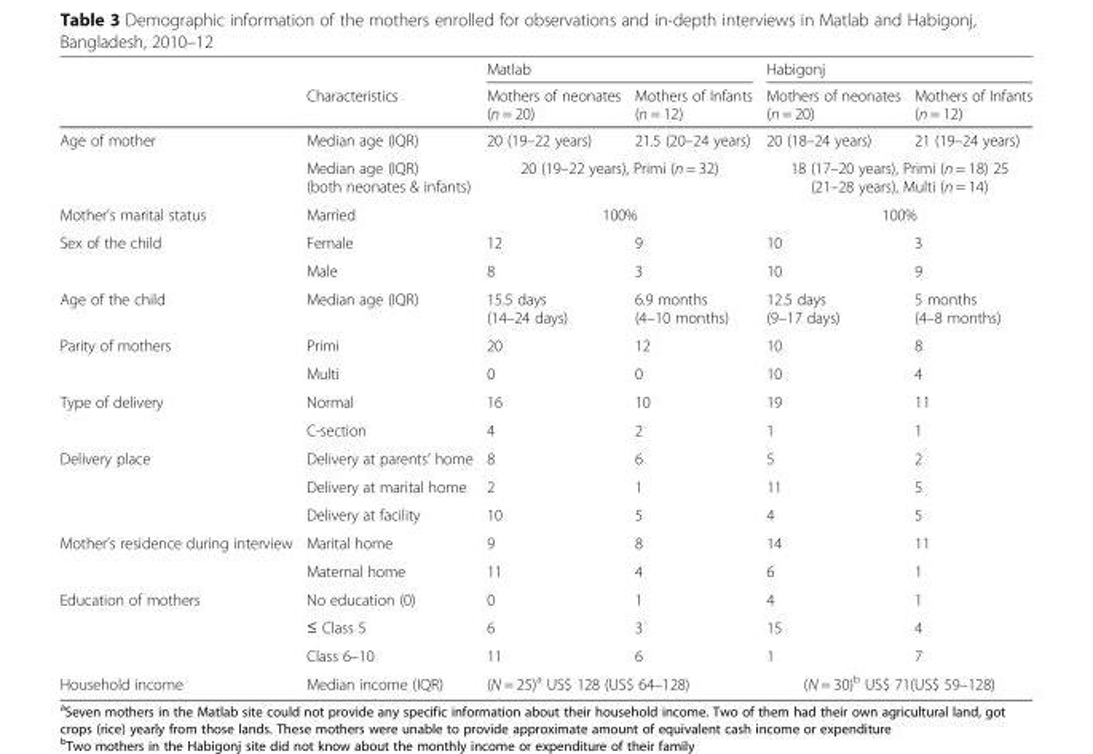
<table><thead><tr><td rowspan="2"></td><td rowspan="2">Characteristics</td><td colspan="2">Matlab</td><td colspan="2">Habigonj</td></tr><tr><td>Mothers of neonates (n = 20)</td><td>Mothers of Infants (n = 12)</td><td>Mothers of neonates (n = 20)</td><td>Mothers of Infants (n = 12)</td></tr></thead><tbody><tr><td rowspan="2">Age of mother</td><td>Median age (IQR)</td><td>20 (19–22 years)</td><td>21.5 (20–24 years)</td><td>20 (18–24 years)</td><td>21 (19–24 years)</td></tr><tr><td>Median age (IQR) (both neonates &amp; infants)</td><td colspan="2">20 (19–22 years), Primi (n = 32)</td><td colspan="2">18 (17–20 years), Primi (n = 18) 25 (21–28 years), Multi (n = 14)</td></tr><tr><td>Mother’s marital status</td><td>Married</td><td colspan="2">100%</td><td colspan="2">100%</td></tr><tr><td rowspan="2">Sex of the child</td><td>Female</td><td>12</td><td>9</td><td>10</td><td>3</td></tr><tr><td>Male</td><td>8</td><td>3</td><td>10</td><td>9</td></tr><tr><td>Age of the child</td><td>Median age (IQR)</td><td>15.5 days (14–24 days)</td><td>6.9 months (4–10 months)</td><td>12.5 days (9–17 days)</td><td>5 months (4–8 months)</td></tr><tr><td rowspan="2">Parity of mothers</td><td>Primi</td><td>20</td><td>12</td><td>10</td><td>8</td></tr><tr><td>Multi</td><td>0</td><td>0</td><td>10</td><td>4</td></tr><tr><td rowspan="2">Type of delivery</td><td>Normal</td><td>16</td><td>10</td><td>19</td><td>11</td></tr><tr><td>C-section</td><td>4</td><td>2</td><td>1</td><td>1</td></tr><tr><td rowspan="3">Delivery place</td><td>Delivery at parents’ home</td><td>8</td><td>6</td><td>5</td><td>2</td></tr><tr><td>Delivery at marital home</td><td>2</td><td>1</td><td>11</td><td>5</td></tr><tr><td>Delivery at facility</td><td>10</td><td>5</td><td>4</td><td>5</td></tr><tr><td rowspan="2">Mother’s residence during interview</td><td>Marital home</td><td>9</td><td>8</td><td>14</td><td>11</td></tr><tr><td>Maternal home</td><td>11</td><td>4</td><td>6</td><td>1</td></tr><tr><td rowspan="3">Education of mothers</td><td>No education (0)</td><td>0</td><td>1</td><td>4</td><td>1</td></tr><tr><td>≤ Class 5</td><td>6</td><td>3</td><td>15</td><td>4</td></tr><tr><td>Class 6–10</td><td>11</td><td>6</td><td>1</td><td>7</td></tr><tr><td>Household income</td><td>Median income (IQR)</td><td colspan="2">(N = 25)<sup>a</sup> US$ 128 (US$ 64–128)</td><td colspan="2">(N = 30)<sup>b</sup> US$ 71(US$ 59–128)</td></tr></tbody></table>